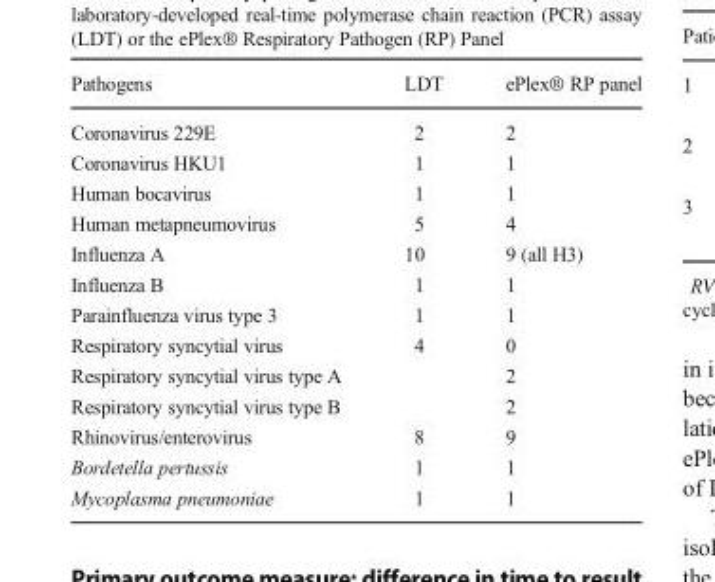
<table><thead><tr><td>Pathogens</td><td>LDT</td><td>ePlex® RP panel</td></tr></thead><tbody><tr><td>Coronavirus 229E</td><td>2</td><td>2</td></tr><tr><td>Coronavirus HKU1</td><td>1</td><td>1</td></tr><tr><td>Human bocavirus</td><td>1</td><td>1</td></tr><tr><td>Human metapneumovirus</td><td>5</td><td>4</td></tr><tr><td>Influenza A</td><td>10</td><td>9 (all H3)</td></tr><tr><td>Influenza B</td><td>1</td><td>1</td></tr><tr><td>Parainfluenza virus type 3</td><td>1</td><td>1</td></tr><tr><td>Respiratory syncytial virus</td><td>4</td><td>0</td></tr><tr><td>Respiratory syncytial virus type A</td><td></td><td>2</td></tr><tr><td>Respiratory syncytial virus type B</td><td></td><td>2</td></tr><tr><td>Rhinovirus/enterovirus</td><td>8</td><td>9</td></tr><tr><td>Bordetella pertussis</td><td>1</td><td>1</td></tr><tr><td>Mycoplasma pneumoniae</td><td>1</td><td>1</td></tr></tbody></table>